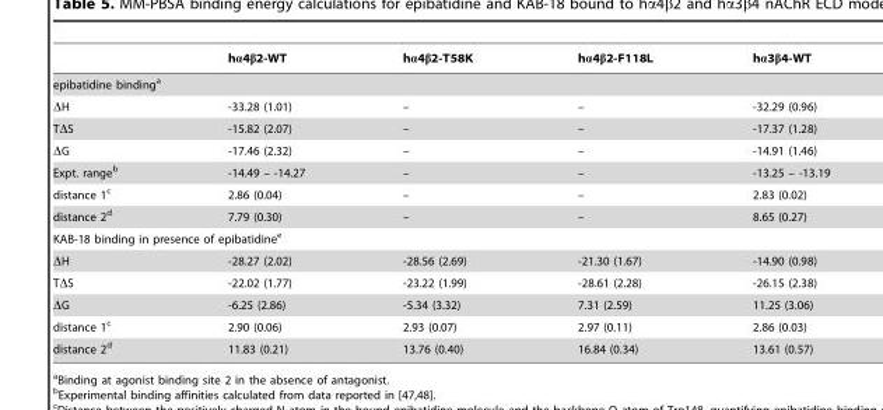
<table><thead><tr><td></td><td>hα4β2-WT</td><td>hα4β2-T58K</td><td>hα4β2-F118L</td><td>hα3β4-WT</td></tr></thead><tbody><tr><td colspan="5">epibatidine binding<sup>a</sup></td></tr><tr><td>ΔH</td><td>-33.28 (1.01)</td><td>–</td><td>–</td><td>-32.29 (0.96)</td></tr><tr><td>TΔS</td><td>-15.82 (2.07)</td><td>–</td><td>–</td><td>-17.37 (1.28)</td></tr><tr><td>ΔG</td><td>-17.46 (2.32)</td><td>–</td><td>–</td><td>-14.91 (1.46)</td></tr><tr><td>Expt. range<sup>b</sup></td><td>-14.49 – -14.27</td><td>–</td><td>–</td><td>-13.25 – -13.19</td></tr><tr><td>distance 1<sup>c</sup></td><td>2.86 (0.04)</td><td>–</td><td>–</td><td>2.83 (0.02)</td></tr><tr><td>distance 2<sup>d</sup></td><td>7.79 (0.30)</td><td>–</td><td>–</td><td>8.65 (0.27)</td></tr><tr><td colspan="5">KAB-18 binding in presence of epibatidine<sup>e</sup></td></tr><tr><td>ΔH</td><td>-28.27 (2.02)</td><td>-28.56 (2.69)</td><td>-21.30 (1.67)</td><td>-14.90 (0.98)</td></tr><tr><td>TΔS</td><td>-22.02 (1.77)</td><td>-23.22 (1.99)</td><td>-28.61 (2.28)</td><td>-26.15 (2.38)</td></tr><tr><td>ΔG</td><td>-6.25 (2.86)</td><td>-5.34 (3.32)</td><td>7.31 (2.59)</td><td>11.25 (3.06)</td></tr><tr><td>distance 1<sup>c</sup></td><td>2.90 (0.06)</td><td>2.93 (0.07)</td><td>2.97 (0.11)</td><td>2.86 (0.03)</td></tr><tr><td>distance 2<sup>d</sup></td><td>11.83 (0.21)</td><td>13.76 (0.40)</td><td>16.84 (0.34)</td><td>13.61 (0.57)</td></tr></tbody></table>